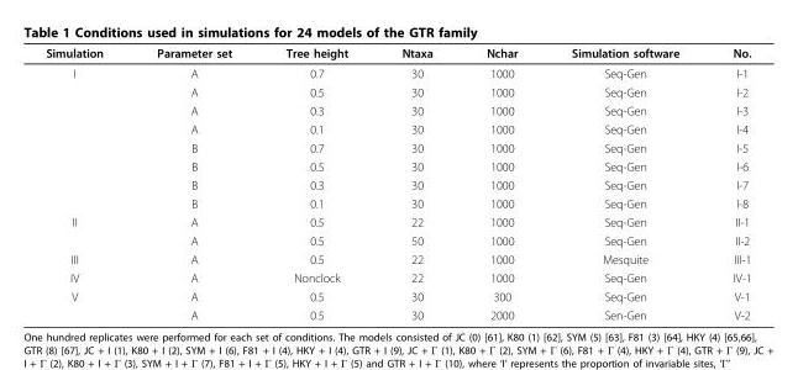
<table><thead><tr><td>Simulation</td><td>Parameter set</td><td>Tree height</td><td>Ntaxa</td><td>Nchar</td><td>Simulation software</td><td>No.</td></tr></thead><tbody><tr><td rowspan="8">I</td><td>A</td><td>0.7</td><td>30</td><td>1000</td><td>Seq-Gen</td><td>I-1</td></tr><tr><td>A</td><td>0.5</td><td>30</td><td>1000</td><td>Seq-Gen</td><td>I-2</td></tr><tr><td>A</td><td>0.3</td><td>30</td><td>1000</td><td>Seq-Gen</td><td>I-3</td></tr><tr><td>A</td><td>0.1</td><td>30</td><td>1000</td><td>Seq-Gen</td><td>I-4</td></tr><tr><td>B</td><td>0.7</td><td>30</td><td>1000</td><td>Seq-Gen</td><td>I-5</td></tr><tr><td>B</td><td>0.5</td><td>30</td><td>1000</td><td>Seq-Gen</td><td>I-6</td></tr><tr><td>B</td><td>0.3</td><td>30</td><td>1000</td><td>Seq-Gen</td><td>I-7</td></tr><tr><td>B</td><td>0.1</td><td>30</td><td>1000</td><td>Seq-Gen</td><td>I-8</td></tr><tr><td rowspan="2">II</td><td>A</td><td>0.5</td><td>22</td><td>1000</td><td>Seq-Gen</td><td>II-1</td></tr><tr><td>A</td><td>0.5</td><td>50</td><td>1000</td><td>Seq-Gen</td><td>II-2</td></tr><tr><td>III</td><td>A</td><td>0.5</td><td>22</td><td>1000</td><td>Mesquite</td><td>III-1</td></tr><tr><td>IV</td><td>A</td><td>Nonclock</td><td>22</td><td>1000</td><td>Seq-Gen</td><td>IV-1</td></tr><tr><td rowspan="2">V</td><td>A</td><td>0.5</td><td>30</td><td>300</td><td>Seq-Gen</td><td>V-1</td></tr><tr><td>A</td><td>0.5</td><td>30</td><td>2000</td><td>Sen-Gen</td><td>V-2</td></tr></tbody></table>